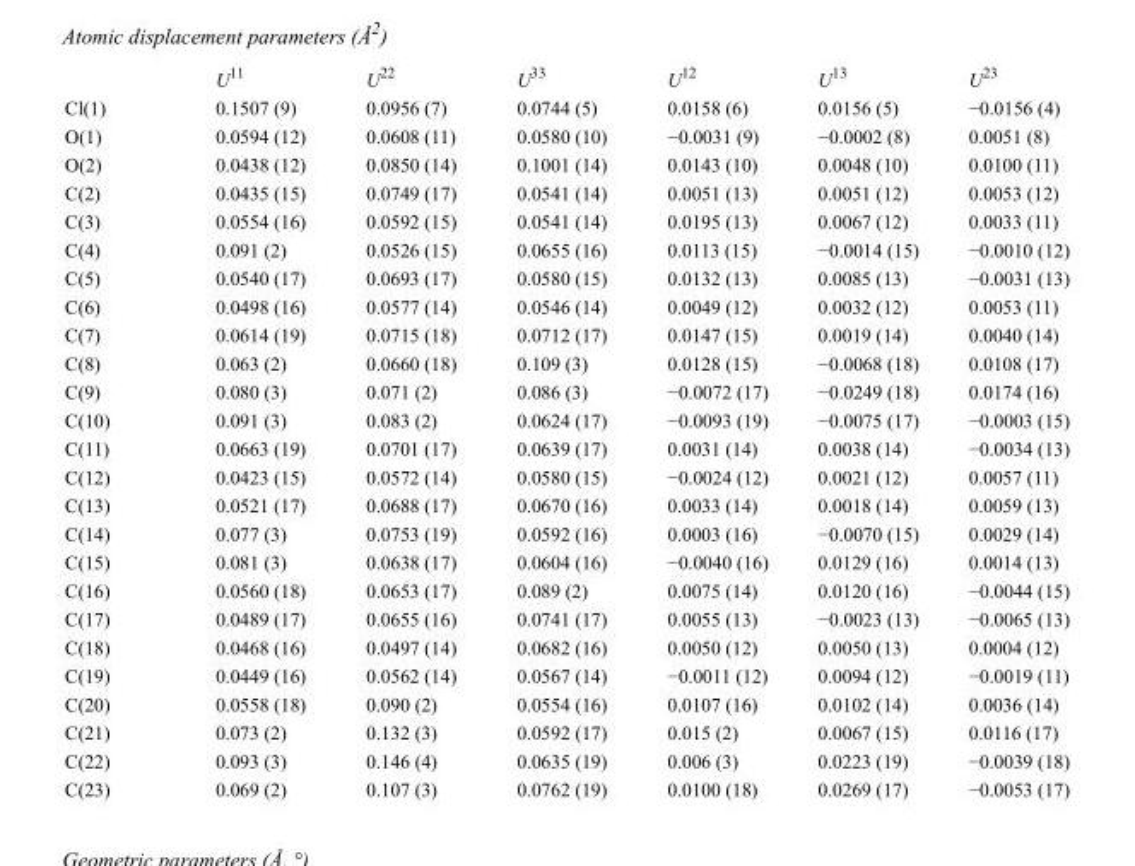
<table><thead><tr><td></td><td>U<sup>11</sup></td><td>U<sup>22</sup></td><td>U<sup>33</sup></td><td>U<sup>12</sup></td><td>U<sup>13</sup></td><td>U<sup>23</sup></td></tr></thead><tbody><tr><td>Cl(1)</td><td>0.1507 (9)</td><td>0.0956 (7)</td><td>0.0744 (5)</td><td>0.0158 (6)</td><td>0.0156 (5)</td><td>−0.0156 (4)</td></tr><tr><td>O(1)</td><td>0.0594 (12)</td><td>0.0608 (11)</td><td>0.0580 (10)</td><td>−0.0031 (9)</td><td>−0.0002 (8)</td><td>0.0051 (8)</td></tr><tr><td>O(2)</td><td>0.0438 (12)</td><td>0.0850 (14)</td><td>0.1001 (14)</td><td>0.0143 (10)</td><td>0.0048 (10)</td><td>0.0100 (11)</td></tr><tr><td>C(2)</td><td>0.0435 (15)</td><td>0.0749 (17)</td><td>0.0541 (14)</td><td>0.0051 (13)</td><td>0.0051 (12)</td><td>0.0053 (12)</td></tr><tr><td>C(3)</td><td>0.0554 (16)</td><td>0.0592 (15)</td><td>0.0541 (14)</td><td>0.0195 (13)</td><td>0.0067 (12)</td><td>0.0033 (11)</td></tr><tr><td>C(4)</td><td>0.091 (2)</td><td>0.0526 (15)</td><td>0.0655 (16)</td><td>0.0113 (15)</td><td>−0.0014 (15)</td><td>−0.0010 (12)</td></tr><tr><td>C(5)</td><td>0.0540 (17)</td><td>0.0693 (17)</td><td>0.0580 (15)</td><td>0.0132 (13)</td><td>0.0085 (13)</td><td>−0.0031 (13)</td></tr><tr><td>C(6)</td><td>0.0498 (16)</td><td>0.0577 (14)</td><td>0.0546 (14)</td><td>0.0049 (12)</td><td>0.0032 (12)</td><td>0.0053 (11)</td></tr><tr><td>C(7)</td><td>0.0614 (19)</td><td>0.0715 (18)</td><td>0.0712 (17)</td><td>0.0147 (15)</td><td>0.0019 (14)</td><td>0.0040 (14)</td></tr><tr><td>C(8)</td><td>0.063 (2)</td><td>0.0660 (18)</td><td>0.109 (3)</td><td>0.0128 (15)</td><td>−0.0068 (18)</td><td>0.0108 (17)</td></tr><tr><td>C(9)</td><td>0.080 (3)</td><td>0.071 (2)</td><td>0.086 (3)</td><td>−0.0072 (17)</td><td>−0.0249 (18)</td><td>0.0174 (16)</td></tr><tr><td>C(10)</td><td>0.091 (3)</td><td>0.083 (2)</td><td>0.0624 (17)</td><td>−0.0093 (19)</td><td>−0.0075 (17)</td><td>−0.0003 (15)</td></tr><tr><td>C(11)</td><td>0.0663 (19)</td><td>0.0701 (17)</td><td>0.0639 (17)</td><td>0.0031 (14)</td><td>0.0038 (14)</td><td>−0.0034 (13)</td></tr><tr><td>C(12)</td><td>0.0423 (15)</td><td>0.0572 (14)</td><td>0.0580 (15)</td><td>−0.0024 (12)</td><td>0.0021 (12)</td><td>0.0057 (11)</td></tr><tr><td>C(13)</td><td>0.0521 (17)</td><td>0.0688 (17)</td><td>0.0670 (16)</td><td>0.0033 (14)</td><td>0.0018 (14)</td><td>0.0059 (13)</td></tr><tr><td>C(14)</td><td>0.077 (3)</td><td>0.0753 (19)</td><td>0.0592 (16)</td><td>0.0003 (16)</td><td>−0.0070 (15)</td><td>0.0029 (14)</td></tr><tr><td>C(15)</td><td>0.081 (3)</td><td>0.0638 (17)</td><td>0.0604 (16)</td><td>−0.0040 (16)</td><td>0.0129 (16)</td><td>0.0014 (13)</td></tr><tr><td>C(16)</td><td>0.0560 (18)</td><td>0.0653 (17)</td><td>0.089 (2)</td><td>0.0075 (14)</td><td>0.0120 (16)</td><td>−0.0044 (15)</td></tr><tr><td>C(17)</td><td>0.0489 (17)</td><td>0.0655 (16)</td><td>0.0741 (17)</td><td>0.0055 (13)</td><td>−0.0023 (13)</td><td>−0.0065 (13)</td></tr><tr><td>C(18)</td><td>0.0468 (16)</td><td>0.0497 (14)</td><td>0.0682 (16)</td><td>0.0050 (12)</td><td>0.0050 (13)</td><td>0.0004 (12)</td></tr><tr><td>C(19)</td><td>0.0449 (16)</td><td>0.0562 (14)</td><td>0.0567 (14)</td><td>−0.0011 (12)</td><td>0.0094 (12)</td><td>−0.0019 (11)</td></tr><tr><td>C(20)</td><td>0.0558 (18)</td><td>0.090 (2)</td><td>0.0554 (16)</td><td>0.0107 (16)</td><td>0.0102 (14)</td><td>0.0036 (14)</td></tr><tr><td>C(21)</td><td>0.073 (2)</td><td>0.132 (3)</td><td>0.0592 (17)</td><td>0.015 (2)</td><td>0.0067 (15)</td><td>0.0116 (17)</td></tr><tr><td>C(22)</td><td>0.093 (3)</td><td>0.146 (4)</td><td>0.0635 (19)</td><td>0.006 (3)</td><td>0.0223 (19)</td><td>−0.0039 (18)</td></tr><tr><td>C(23)</td><td>0.069 (2)</td><td>0.107 (3)</td><td>0.0762 (19)</td><td>0.0100 (18)</td><td>0.0269 (17)</td><td>−0.0053 (17)</td></tr></tbody></table>